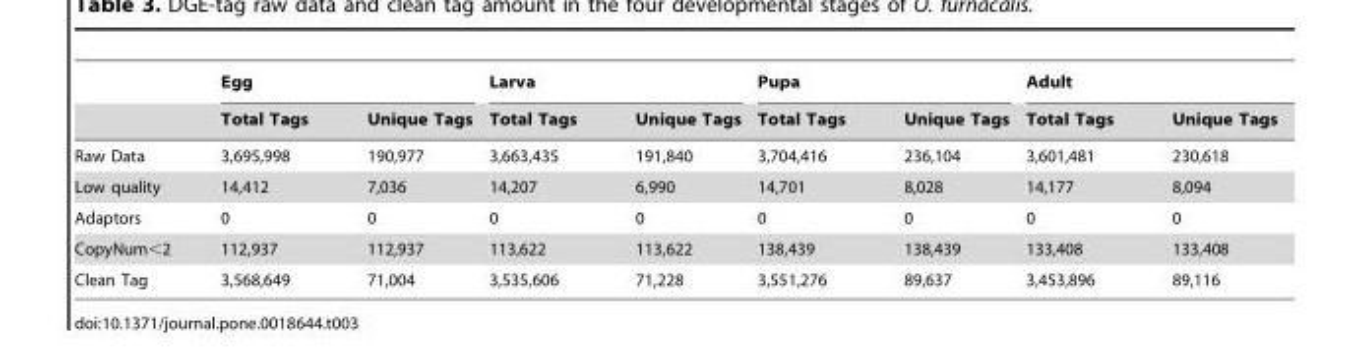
<table><thead><tr><td rowspan="2"></td><td colspan="2">Egg</td><td colspan="2">Larva</td><td colspan="2">Pupa</td><td colspan="2">Adult</td></tr><tr><td>Total Tags</td><td>Unique Tags</td><td>Total Tags</td><td>Unique Tags</td><td>Total Tags</td><td>Unique Tags</td><td>Total Tags</td><td>Unique Tags</td></tr></thead><tbody><tr><td>Raw Data</td><td>3,695,998</td><td>190,977</td><td>3,663,435</td><td>191,840</td><td>3,704,416</td><td>236,104</td><td>3,601,481</td><td>230,618</td></tr><tr><td>Low quality</td><td>14,412</td><td>7,036</td><td>14,207</td><td>6,990</td><td>14,701</td><td>8,028</td><td>14,177</td><td>8,094</td></tr><tr><td>Adaptors</td><td>0</td><td>0</td><td>0</td><td>0</td><td>0</td><td>0</td><td>0</td><td>0</td></tr><tr><td>CopyNum&lt;2</td><td>112,937</td><td>112,937</td><td>113,622</td><td>113,622</td><td>138,439</td><td>138,439</td><td>133,408</td><td>133,408</td></tr><tr><td>Clean Tag</td><td>3,568,649</td><td>71,004</td><td>3,535,606</td><td>71,228</td><td>3,551,276</td><td>89,637</td><td>3,453,896</td><td>89,116</td></tr></tbody></table>